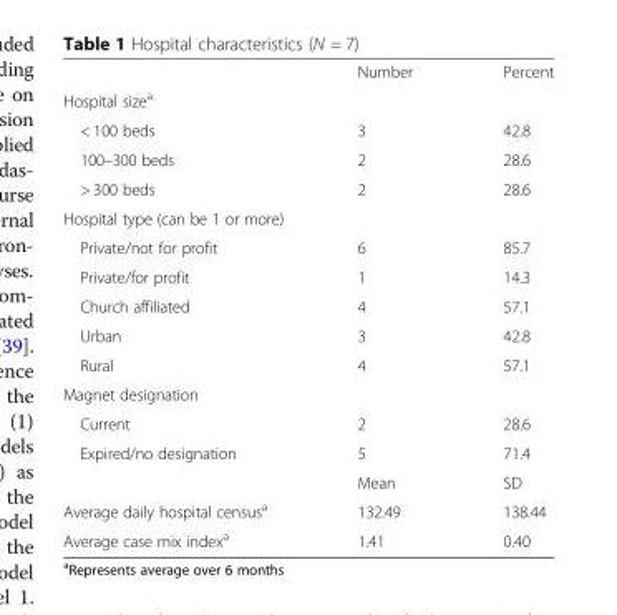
<table><thead><tr><td></td><td>Number</td><td>Percent</td></tr></thead><tbody><tr><td colspan="3">Hospital size<sup>a</sup></td></tr><tr><td>&lt; 100 beds</td><td>3</td><td>42.8</td></tr><tr><td>100–300 beds</td><td>2</td><td>28.6</td></tr><tr><td>&gt; 300 beds</td><td>2</td><td>28.6</td></tr><tr><td colspan="3">Hospital type (can be 1 or more)</td></tr><tr><td>Private/not for profit</td><td>6</td><td>85.7</td></tr><tr><td>Private/for profit</td><td>1</td><td>14.3</td></tr><tr><td>Church affiliated</td><td>4</td><td>57.1</td></tr><tr><td>Urban</td><td>3</td><td>42.8</td></tr><tr><td>Rural</td><td>4</td><td>57.1</td></tr><tr><td colspan="3">Magnet designation</td></tr><tr><td>Current</td><td>2</td><td>28.6</td></tr><tr><td rowspan="2">Expired/no designation</td><td>5</td><td>71.4</td></tr><tr><td>Mean</td><td>SD</td></tr><tr><td>Average daily hospital census<sup>a</sup></td><td>132.49</td><td>138.44</td></tr><tr><td>Average case mix index<sup>a</sup></td><td>1.41</td><td>0.40</td></tr></tbody></table>